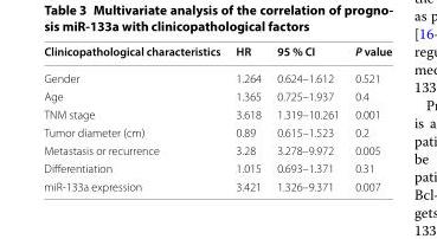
<table><thead><tr><td>Clinicopathological characteristics</td><td>HR</td><td>95 % CI</td><td>P value</td></tr></thead><tbody><tr><td>Gender</td><td>1.264</td><td>0.624–1.612</td><td>0.521</td></tr><tr><td>Age</td><td>1.365</td><td>0.725–1.937</td><td>0.4</td></tr><tr><td>TNM stage</td><td>3.618</td><td>1.319–10.261</td><td>0.001</td></tr><tr><td>Tumor diameter (cm)</td><td>0.89</td><td>0.615–1.523</td><td>0.2</td></tr><tr><td>Metastasis or recurrence</td><td>3.28</td><td>3.278–9.972</td><td>0.005</td></tr><tr><td>Differentiation</td><td>1.015</td><td>0.693–1.371</td><td>0.31</td></tr><tr><td>miR-133a expression</td><td>3.421</td><td>1.326–9.371</td><td>0.007</td></tr></tbody></table>